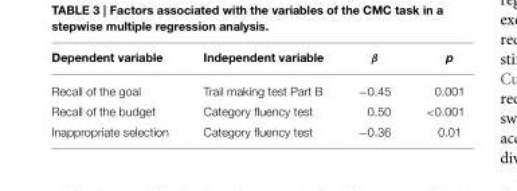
<table><thead><tr><td>Dependent variable</td><td>Independent variable</td><td>β</td><td>p</td></tr></thead><tbody><tr><td>Recall of the goal</td><td>Trail making test Part B</td><td>−0.45</td><td>0.001</td></tr><tr><td>Recall of the budget</td><td>Category fluency test</td><td>0.50</td><td>&lt;0.001</td></tr><tr><td>Inappropriate selection</td><td>Category fluency test</td><td>−0.36</td><td>0.01</td></tr></tbody></table>